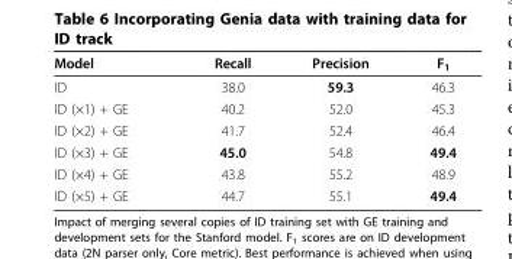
<table><thead><tr><td>Model</td><td>Recall</td><td>Precision</td><td>F<sub>1</sub></td></tr></thead><tbody><tr><td>ID</td><td>38.0</td><td>59.3</td><td>46.3</td></tr><tr><td>ID (×1) + GE</td><td>40.2</td><td>52.0</td><td>45.3</td></tr><tr><td>ID (×2) + GE</td><td>41.7</td><td>52.4</td><td>46.4</td></tr><tr><td>ID (×3) + GE</td><td>45.0</td><td>54.8</td><td>49.4</td></tr><tr><td>ID (×4) + GE</td><td>43.8</td><td>55.2</td><td>48.9</td></tr><tr><td>ID (×5) + GE</td><td>44.7</td><td>55.1</td><td>49.4</td></tr></tbody></table>